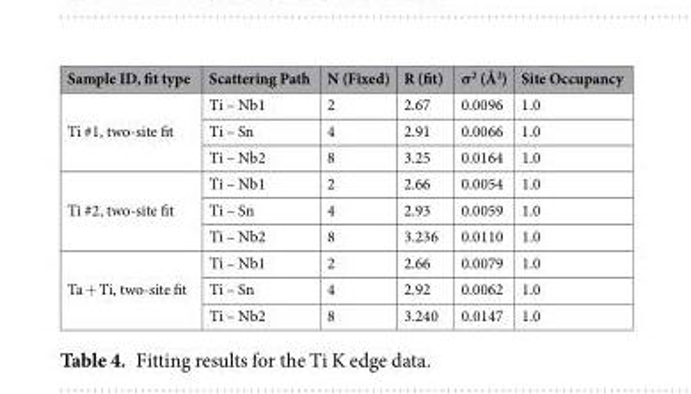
<table><thead><tr><td>Sample ID, fit type</td><td>Scattering Path</td><td>N (Fixed)</td><td>R (fit)</td><td>σ<sup>2</sup> (Å<sup>2</sup>)</td><td>Site Occupancy</td></tr></thead><tbody><tr><td rowspan="3">Ti #1, two-site fit</td><td>Ti – Nb1</td><td>2</td><td>2.67</td><td>0.0096</td><td>1.0</td></tr><tr><td>Ti – Sn</td><td>4</td><td>2.91</td><td>0.0066</td><td>1.0</td></tr><tr><td>Ti – Nb2</td><td>8</td><td>3.25</td><td>0.0164</td><td>1.0</td></tr><tr><td rowspan="3">Ti #2, two-site fit</td><td>Ti – Nb1</td><td>2</td><td>2.66</td><td>0.0054</td><td>1.0</td></tr><tr><td>Ti – Sn</td><td>4</td><td>2.93</td><td>0.0059</td><td>1.0</td></tr><tr><td>Ti – Nb2</td><td>8</td><td>3.236</td><td>0.0110</td><td>1.0</td></tr><tr><td rowspan="3">Ta + Ti, two-site fit</td><td>Ti – Nb1</td><td>2</td><td>2.66</td><td>0.0079</td><td>1.0</td></tr><tr><td>Ti – Sn</td><td>4</td><td>2.92</td><td>0.0062</td><td>1.0</td></tr><tr><td>Ti – Nb2</td><td>8</td><td>3.240</td><td>0.0147</td><td>1.0</td></tr></tbody></table>